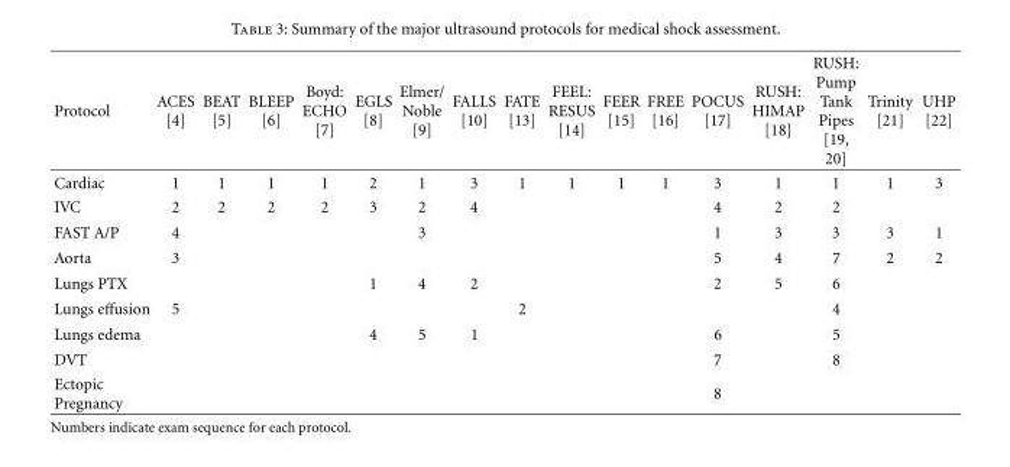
<table><thead><tr><td>Protocol</td><td>ACES [4]</td><td>BEAT [5]</td><td>BLEEP [6]</td><td>Boyd: ECHO [7]</td><td>EGLS [8]</td><td>Elmer/ Noble [9]</td><td>FALLS [10]</td><td>FATE [13]</td><td>FEEL: RESUS [14]</td><td>FEER [15]</td><td>FREE [16]</td><td>POCUS [17]</td><td>RUSH: HIMAP [18]</td><td>RUSH: Pump Tank Pipes [19, 20]</td><td>Trinity [21]</td><td>UHP [22]</td></tr></thead><tbody><tr><td>Cardiac</td><td>1</td><td>1</td><td>1</td><td>1</td><td>2</td><td>1</td><td>3</td><td>1</td><td>1</td><td>1</td><td>1</td><td>3</td><td>1</td><td>1</td><td>1</td><td>3</td></tr><tr><td>IVC</td><td>2</td><td>2</td><td>2</td><td>2</td><td>3</td><td>2</td><td>4</td><td></td><td></td><td></td><td></td><td>4</td><td>2</td><td>2</td><td></td><td></td></tr><tr><td>FAST A/P</td><td>4</td><td></td><td></td><td></td><td></td><td>3</td><td></td><td></td><td></td><td></td><td></td><td>1</td><td>3</td><td>3</td><td>3</td><td>1</td></tr><tr><td>Aorta</td><td>3</td><td></td><td></td><td></td><td></td><td></td><td></td><td></td><td></td><td></td><td></td><td>5</td><td>4</td><td>7</td><td>2</td><td>2</td></tr><tr><td>Lungs PTX</td><td></td><td></td><td></td><td></td><td>1</td><td>4</td><td>2</td><td></td><td></td><td></td><td></td><td>2</td><td>5</td><td>6</td><td></td><td></td></tr><tr><td>Lungs effusion</td><td>5</td><td></td><td></td><td></td><td></td><td></td><td></td><td>2</td><td></td><td></td><td></td><td></td><td></td><td>4</td><td></td><td></td></tr><tr><td>Lungs edema</td><td></td><td></td><td></td><td></td><td>4</td><td>5</td><td>1</td><td></td><td></td><td></td><td></td><td>6</td><td></td><td>5</td><td></td><td></td></tr><tr><td>DVT</td><td></td><td></td><td></td><td></td><td></td><td></td><td></td><td></td><td></td><td></td><td></td><td>7</td><td></td><td>8</td><td></td><td></td></tr><tr><td>Ectopic Pregnancy</td><td></td><td></td><td></td><td></td><td></td><td></td><td></td><td></td><td></td><td></td><td></td><td>8</td><td></td><td></td><td></td><td></td></tr></tbody></table>